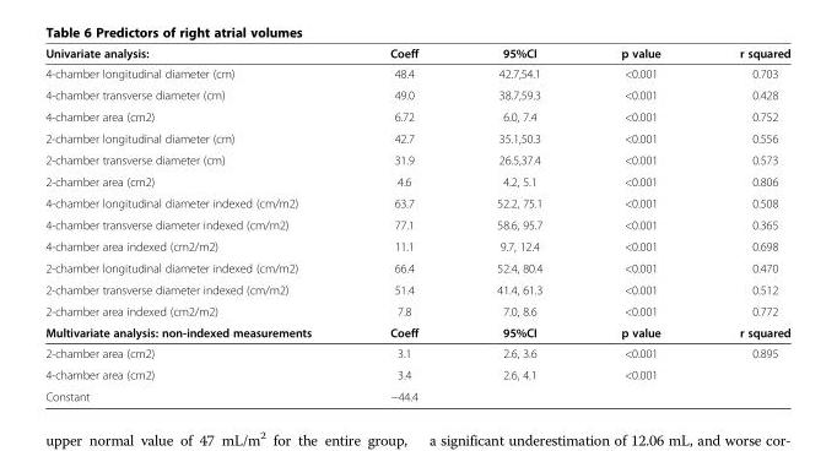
<table><thead><tr><td>Univariate analysis:</td><td>Coeff</td><td>95%CI</td><td>p value</td><td>r squared</td></tr></thead><tbody><tr><td>4-chamber longitudinal diameter (cm)</td><td>48.4</td><td>42.7,54.1</td><td>&lt;0.001</td><td>0.703</td></tr><tr><td>4-chamber transverse diameter (cm)</td><td>49.0</td><td>38.7,59.3</td><td>&lt;0.001</td><td>0.428</td></tr><tr><td>4-chamber area (cm2)</td><td>6.72</td><td>6.0, 7.4</td><td>&lt;0.001</td><td>0.752</td></tr><tr><td>2-chamber longitudinal diameter (cm)</td><td>42.7</td><td>35.1,50.3</td><td>&lt;0.001</td><td>0.556</td></tr><tr><td>2-chamber transverse diameter (cm)</td><td>31.9</td><td>26.5,37.4</td><td>&lt;0.001</td><td>0.573</td></tr><tr><td>2-chamber area (cm2)</td><td>4.6</td><td>4.2, 5.1</td><td>&lt;0.001</td><td>0.806</td></tr><tr><td>4-chamber longitudinal diameter indexed (cm/m2)</td><td>63.7</td><td>52.2, 75.1</td><td>&lt;0.001</td><td>0.508</td></tr><tr><td>4-chamber transverse diameter indexed (cm/m2)</td><td>77.1</td><td>58.6, 95.7</td><td>&lt;0.001</td><td>0.365</td></tr><tr><td>4-chamber area indexed (cm2/m2)</td><td>11.1</td><td>9.7, 12.4</td><td>&lt;0.001</td><td>0.698</td></tr><tr><td>2-chamber longitudinal diameter indexed (cm/m2)</td><td>66.4</td><td>52.4, 80.4</td><td>&lt;0.001</td><td>0.470</td></tr><tr><td>2-chamber transverse diameter indexed (cm/m2)</td><td>51.4</td><td>41.4, 61.3</td><td>&lt;0.001</td><td>0.512</td></tr><tr><td>2-chamber area indexed (cm2/m2)</td><td>7.8</td><td>7.0, 8.6</td><td>&lt;0.001</td><td>0.772</td></tr><tr><td>Multivariate analysis: non-indexed measurements</td><td>Coeff</td><td>95%CI</td><td>p value</td><td>r squared</td></tr><tr><td>2-chamber area (cm2)</td><td>3.1</td><td>2.6, 3.6</td><td>&lt;0.001</td><td>0.895</td></tr><tr><td>4-chamber area (cm2)</td><td>3.4</td><td>2.6, 4.1</td><td>&lt;0.001</td><td></td></tr><tr><td>Constant</td><td>−44.4</td><td></td><td></td><td></td></tr></tbody></table>